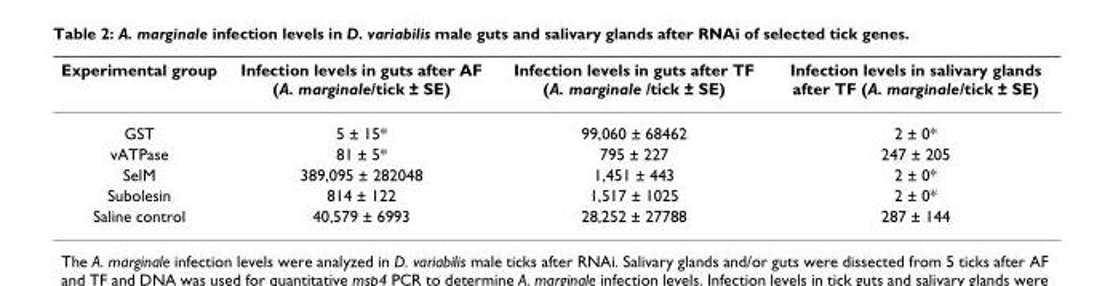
<table><thead><tr><td>Experimental group</td><td>Infection levels in guts after AF (A. marginale/tick ± SE)</td><td>Infection levels in guts after TF (A. marginale /tick ± SE)</td><td>Infection levels in salivary glands after TF (A. marginale/tick ± SE)</td></tr></thead><tbody><tr><td>GST</td><td>5 ± 15*</td><td>99,060 ± 68462</td><td>2 ± 0*</td></tr><tr><td>vATPase</td><td>81 ± 5*</td><td>795 ± 227</td><td>247 ± 205</td></tr><tr><td>SelM</td><td>389,095 ± 282048</td><td>1,451 ± 443</td><td>2 ± 0*</td></tr><tr><td>Subolesin</td><td>814 ± 122</td><td>1,517 ± 1025</td><td>2 ± 0*</td></tr><tr><td>Saline control</td><td>40,579 ± 6993</td><td>28,252 ± 27788</td><td>287 ± 144</td></tr></tbody></table>